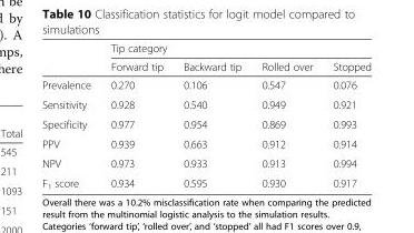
<table><thead><tr><td rowspan="2"></td><td colspan="4">Tip category</td></tr><tr><td>Forward tip</td><td>Backward tip</td><td>Rolled over</td><td>Stopped</td></tr></thead><tbody><tr><td>Prevalence</td><td>0.270</td><td>0.106</td><td>0.547</td><td>0.076</td></tr><tr><td>Sensitivity</td><td>0.928</td><td>0.540</td><td>0.949</td><td>0.921</td></tr><tr><td>Specificity</td><td>0.977</td><td>0.954</td><td>0.869</td><td>0.993</td></tr><tr><td>PPV</td><td>0.939</td><td>0.663</td><td>0.912</td><td>0.914</td></tr><tr><td>NPV</td><td>0.973</td><td>0.933</td><td>0.913</td><td>0.994</td></tr><tr><td>F<sub>1</sub> score</td><td>0.934</td><td>0.595</td><td>0.930</td><td>0.917</td></tr></tbody></table>